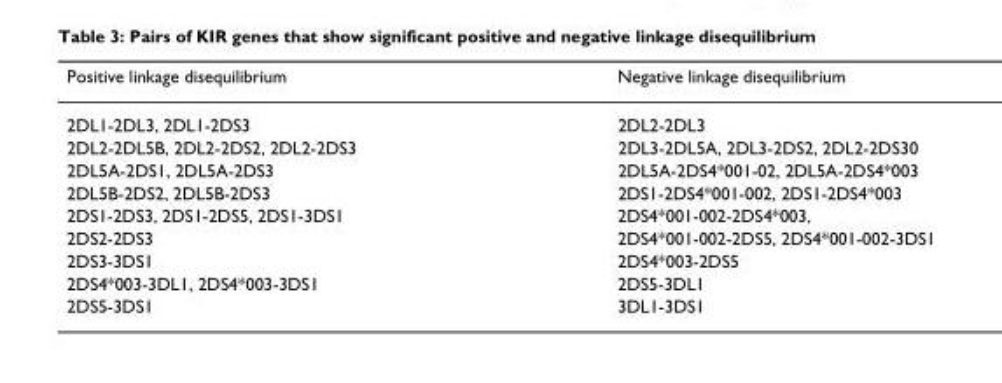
<table><thead><tr><td>Positive linkage disequilibrium</td><td>Negative linkage disequilibrium</td></tr></thead><tbody><tr><td>2DL1-2DL3, 2DL1-2DS3</td><td>2DL2-2DL3</td></tr><tr><td>2DL2-2DL5B, 2DL2-2DS2, 2DL2-2DS3</td><td>2DL3-2DL5A, 2DL3-2DS2, 2DL2-2DS30</td></tr><tr><td>2DL5A-2DS1, 2DL5A-2DS3</td><td>2DL5A-2DS4*001-02, 2DL5A-2DS4*003</td></tr><tr><td>2DL5B-2DS2, 2DL5B-2DS3</td><td>2DS1-2DS4*001-002, 2DS1-2DS4*003</td></tr><tr><td>2DS1-2DS3, 2DS1-2DS5, 2DS1-3DS1</td><td>2DS4*001-002-2DS4*003,</td></tr><tr><td>2DS2-2DS3</td><td>2DS4*001-002-2DS5, 2DS4*001-002-3DS1</td></tr><tr><td>2DS3-3DS1</td><td>2DS4*003-2DS5</td></tr><tr><td>2DS4*003-3DL1, 2DS4*003-3DS1</td><td>2DS5-3DL1</td></tr><tr><td>2DS5-3DS1</td><td>3DL1-3DS1</td></tr></tbody></table>